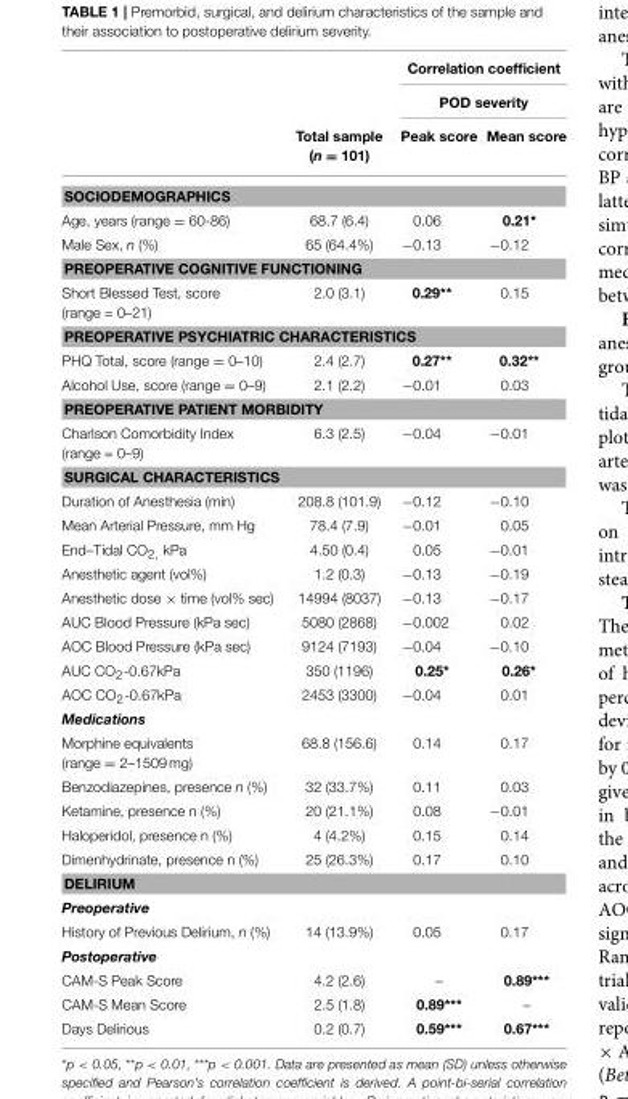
<table><thead><tr><td rowspan="3"></td><td rowspan="3">Total sample (n = 101)</td><td rowspan="2" colspan="2">Correlation coefficient POD severity</td></tr><tr></tr><tr><td>Peak score</td><td>Mean score</td></tr></thead><tbody><tr><td colspan="4">SOCIODEMOGRAPHICS</td></tr><tr><td>Age, years (range = 60-86)</td><td>68.7 (6.4)</td><td>0.06</td><td>0.21*</td></tr><tr><td>Male Sex, n (%)</td><td>65 (64.4%)</td><td>−0.13</td><td>−0.12</td></tr><tr><td colspan="4">PREOPERATIVE COGNITIVE FUNCTIONING</td></tr><tr><td>Short Blessed Test, score (range = 0–21)</td><td>2.0 (3.1)</td><td>0.29**</td><td>0.15</td></tr><tr><td colspan="4">PREOPERATIVE PSYCHIATRIC CHARACTERISTICS</td></tr><tr><td>PHQ Total, score (range = 0–10)</td><td>2.4 (2.7)</td><td>0.27**</td><td>0.32**</td></tr><tr><td>Alcohol Use, score (range = 0–9)</td><td>2.1 (2.2)</td><td>−0.01</td><td>0.03</td></tr><tr><td colspan="4">PREOPERATIVE PATIENT MORBIDITY</td></tr><tr><td>Charlson Comorbidity Index (range = 0–9)</td><td>6.3 (2.5)</td><td>−0.04</td><td>−0.01</td></tr><tr><td colspan="4">SURGICAL CHARACTERISTICS</td></tr><tr><td>Duration of Anesthesia (min)</td><td>208.8 (101.9)</td><td>−0.12</td><td>−0.10</td></tr><tr><td>Mean Arterial Pressure, mm Hg</td><td>78.4 (7.9)</td><td>−0.01</td><td>0.05</td></tr><tr><td>End–Tidal CO<sub>2</sub>, kPa</td><td>4.50 (0.4)</td><td>0.05</td><td>−0.01</td></tr><tr><td>Anesthetic agent (vol%)</td><td>1.2 (0.3)</td><td>−0.13</td><td>−0.19</td></tr><tr><td>Anesthetic dose × time (vol% sec)</td><td>14994 (8037)</td><td>−0.13</td><td>−0.17</td></tr><tr><td>AUC Blood Pressure (kPa sec)</td><td>5080 (2868)</td><td>−0.002</td><td>0.02</td></tr><tr><td>AOC Blood Pressure (kPa sec)</td><td>9124 (7193)</td><td>−0.04</td><td>−0.10</td></tr><tr><td>AUC CO<sub>2</sub>-0.67kPa</td><td>350 (1196)</td><td>0.25*</td><td>0.26*</td></tr><tr><td>AOC CO<sub>2</sub>-0.67kPa</td><td>2453 (3300)</td><td>−0.04</td><td>0.01</td></tr><tr><td colspan="4">Medications</td></tr><tr><td>Morphine equivalents (range = 2–1509 mg)</td><td>68.8 (156.6)</td><td>0.14</td><td>0.17</td></tr><tr><td>Benzodiazepines, presence n (%)</td><td>32 (33.7%)</td><td>0.11</td><td>0.03</td></tr><tr><td>Ketamine, presence n (%)</td><td>20 (21.1%)</td><td>0.08</td><td>−0.01</td></tr><tr><td>Haloperidol, presence n (%)</td><td>4 (4.2%)</td><td>0.15</td><td>0.14</td></tr><tr><td>Dimenhydrinate, presence n (%)</td><td>25 (26.3%)</td><td>0.17</td><td>0.10</td></tr><tr><td colspan="4">DELIRIUM</td></tr><tr><td colspan="4">Preoperative</td></tr><tr><td>History of Previous Delirium, n (%)</td><td>14 (13.9%)</td><td>0.05</td><td>0.17</td></tr><tr><td colspan="4">Postoperative</td></tr><tr><td>CAM-S Peak Score</td><td>4.2 (2.6)</td><td>–</td><td>0.89***</td></tr><tr><td>CAM-S Mean Score</td><td>2.5 (1.8)</td><td>0.89***</td><td>–</td></tr><tr><td>Days Delirious</td><td>0.2 (0.7)</td><td>0.59***</td><td>0.67***</td></tr></tbody></table>